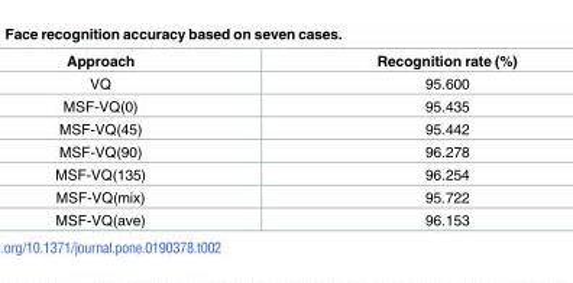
<table><thead><tr><td>Approach</td><td>Recognition rate (%)</td></tr></thead><tbody><tr><td>VQ</td><td>95.600</td></tr><tr><td>MSF-VQ(0)</td><td>95.435</td></tr><tr><td>MSF-VQ(45)</td><td>95.442</td></tr><tr><td>MSF-VQ(90)</td><td>96.278</td></tr><tr><td>MSF-VQ(135)</td><td>96.254</td></tr><tr><td>MSF-VQ(mix)</td><td>95.722</td></tr><tr><td>MSF-VQ(ave)</td><td>96.153</td></tr></tbody></table>